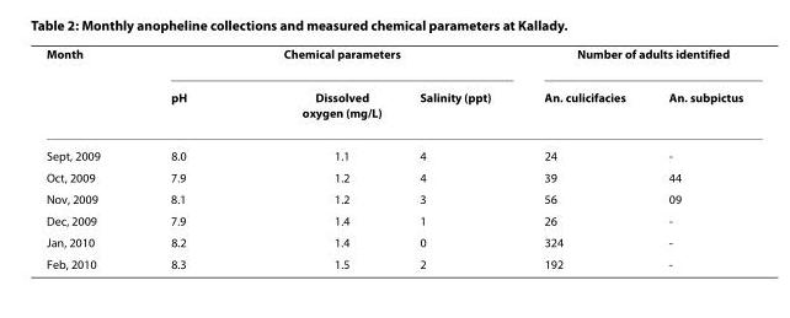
<table><thead><tr><td rowspan="2">Month</td><td colspan="3">Chemical parameters</td><td colspan="2">Number of adults identified</td></tr><tr><td>pH</td><td>Dissolved oxygen (mg/L)</td><td>Salinity (ppt)</td><td>An. culicifacies</td><td>An. subpictus</td></tr></thead><tbody><tr><td>Sept, 2009</td><td>8.0</td><td>1.1</td><td>4</td><td>24</td><td>-</td></tr><tr><td>Oct, 2009</td><td>7.9</td><td>1.2</td><td>4</td><td>39</td><td>44</td></tr><tr><td>Nov, 2009</td><td>8.1</td><td>1.2</td><td>3</td><td>56</td><td>09</td></tr><tr><td>Dec, 2009</td><td>7.9</td><td>1.4</td><td>1</td><td>26</td><td>-</td></tr><tr><td>Jan, 2010</td><td>8.2</td><td>1.4</td><td>0</td><td>324</td><td>-</td></tr><tr><td>Feb, 2010</td><td>8.3</td><td>1.5</td><td>2</td><td>192</td><td>-</td></tr></tbody></table>